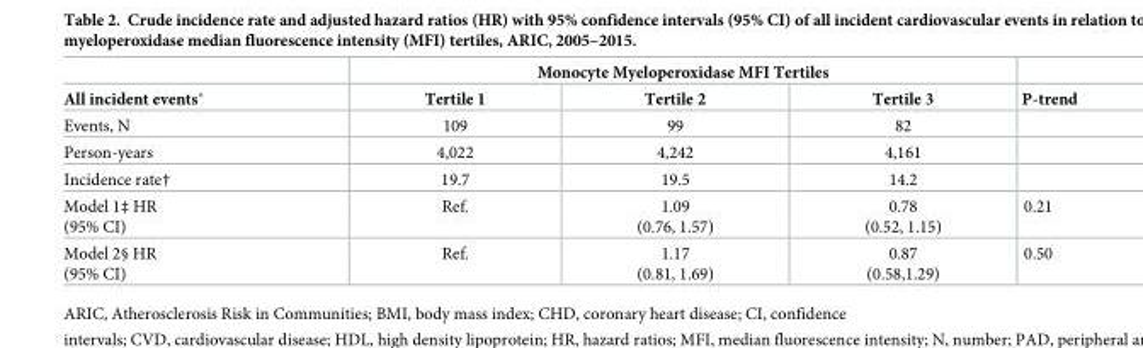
<table><thead><tr><td rowspan="2">All incident events*</td><td colspan="3">Monocyte Myeloperoxidase MFI Tertiles</td><td rowspan="2">P-trend</td></tr><tr><td>Tertile 1</td><td>Tertile 2</td><td>Tertile 3</td></tr></thead><tbody><tr><td>Events, N</td><td>109</td><td>99</td><td>82</td><td></td></tr><tr><td>Person-years</td><td>4,022</td><td>4,242</td><td>4,161</td><td></td></tr><tr><td>Incidence rate†</td><td>19.7</td><td>19.5</td><td>14.2</td><td></td></tr><tr><td>Model 1‡ HR (95% CI)</td><td>Ref.</td><td>1.09 (0.76, 1.57)</td><td>0.78 (0.52, 1.15)</td><td>0.21</td></tr><tr><td>Model 2§ HR (95% CI)</td><td>Ref.</td><td>1.17 (0.81, 1.69)</td><td>0.87 (0.58,1.29)</td><td>0.50</td></tr></tbody></table>